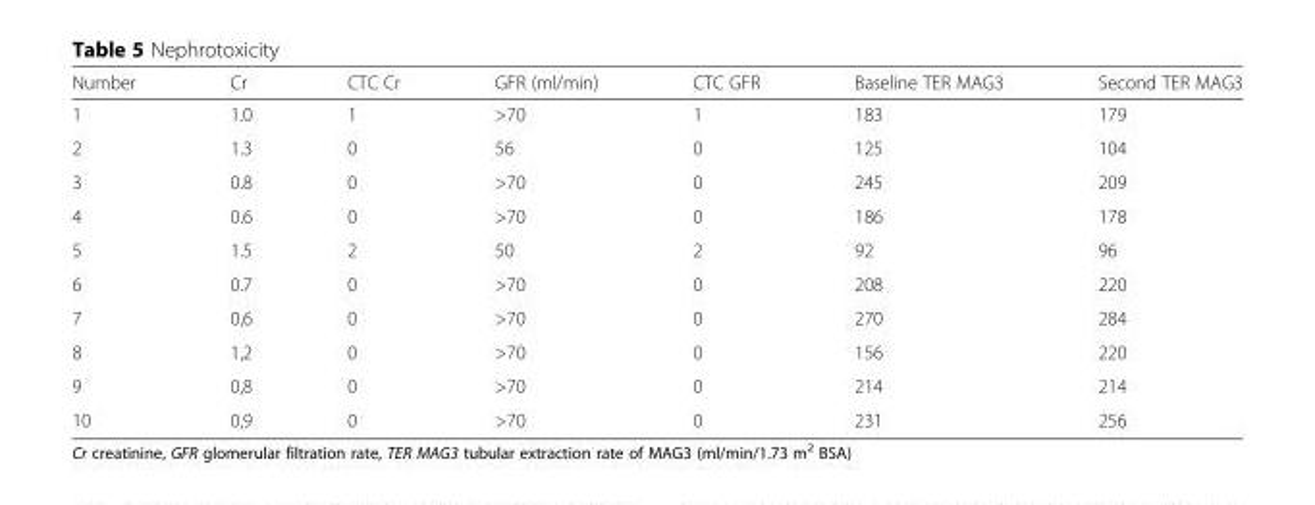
<table><thead><tr><td>Number</td><td>Cr</td><td>CTC Cr</td><td>GFR (ml/min)</td><td>CTC GFR</td><td>Baseline TER MAG3</td><td>Second TER MAG3</td></tr></thead><tbody><tr><td>1</td><td>1.0</td><td>1</td><td>&gt;70</td><td>1</td><td>183</td><td>179</td></tr><tr><td>2</td><td>1.3</td><td>0</td><td>56</td><td>0</td><td>125</td><td>104</td></tr><tr><td>3</td><td>0.8</td><td>0</td><td>&gt;70</td><td>0</td><td>245</td><td>209</td></tr><tr><td>4</td><td>0.6</td><td>0</td><td>&gt;70</td><td>0</td><td>186</td><td>178</td></tr><tr><td>5</td><td>1.5</td><td>2</td><td>50</td><td>2</td><td>92</td><td>96</td></tr><tr><td>6</td><td>0.7</td><td>0</td><td>&gt;70</td><td>0</td><td>208</td><td>220</td></tr><tr><td>7</td><td>0,6</td><td>0</td><td>&gt;70</td><td>0</td><td>270</td><td>284</td></tr><tr><td>8</td><td>1,2</td><td>0</td><td>&gt;70</td><td>0</td><td>156</td><td>220</td></tr><tr><td>9</td><td>0,8</td><td>0</td><td>&gt;70</td><td>0</td><td>214</td><td>214</td></tr><tr><td>10</td><td>0,9</td><td>0</td><td>&gt;70</td><td>0</td><td>231</td><td>256</td></tr></tbody></table>